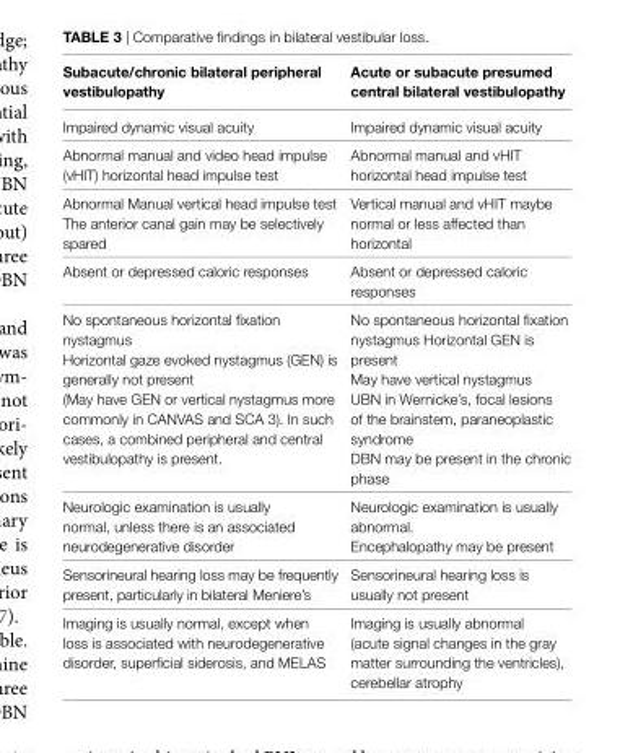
<table><thead><tr><td>subacute/chronic bilateral peripheral vestibulopathy</td><td>acute or subacute presumed central bilateral vestibulopathy</td></tr></thead><tbody><tr><td>Impaired dynamic visual acuity</td><td>Impaired dynamic visual acuity</td></tr><tr><td>Abnormal manual and video head impulse (vHIT) horizontal head impulse test</td><td>Abnormal manual and vHIT horizontal head impulse test</td></tr><tr><td>Abnormal Manual vertical head impulse test The anterior canal gain may be selectively spared</td><td>Vertical manual and vHIT maybe normal or less affected than horizontal</td></tr><tr><td>Absent or depressed caloric responses</td><td>Absent or depressed caloric responses</td></tr><tr><td>No spontaneous horizontal fixation nystagmus Horizontal gaze evoked nystagmus (GEN) is generally not present (May have GEN or vertical nystagmus more commonly in CANVAS and SCA 3). In such cases, a combined peripheral and central vestibulopathy is present.</td><td>No spontaneous horizontal fixation nystagmus Horizontal GEN is present May have vertical nystagmus UBN in Wernicke’s, focal lesions of the brainstem, paraneoplastic syndrome DBN may be present in the chronic phase</td></tr><tr><td>Neurologic examination is usually normal, unless there is an associated neurodegenerative disorder</td><td>Neurologic examination is usually abnormal. Encephalopathy may be present</td></tr><tr><td>Sensorineural hearing loss may be frequently present, particularly in bilateral Meniere’s</td><td>Sensorineural hearing loss is usually not present</td></tr><tr><td>Imaging is usually normal, except when loss is associated with neurodegenerative disorder, superficial siderosis, and MELAS</td><td>Imaging is usually abnormal (acute signal changes in the gray matter surrounding the ventricles), cerebellar atrophy</td></tr></tbody></table>